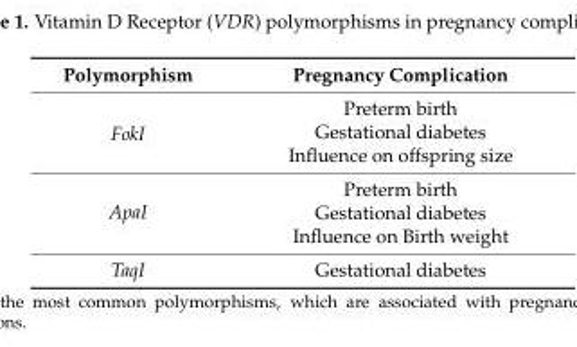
<table><thead><tr><td>Polymorphism</td><td>Pregnancy Complication</td></tr></thead><tbody><tr><td rowspan="3">FokI</td><td>Preterm birth</td></tr><tr><td>Gestational diabetes</td></tr><tr><td>Influence on offspring size</td></tr><tr><td rowspan="3">ApaI</td><td>Preterm birth</td></tr><tr><td>Gestational diabetes</td></tr><tr><td>Influence on Birth weight</td></tr><tr><td>TaqI</td><td>Gestational diabetes</td></tr></tbody></table>